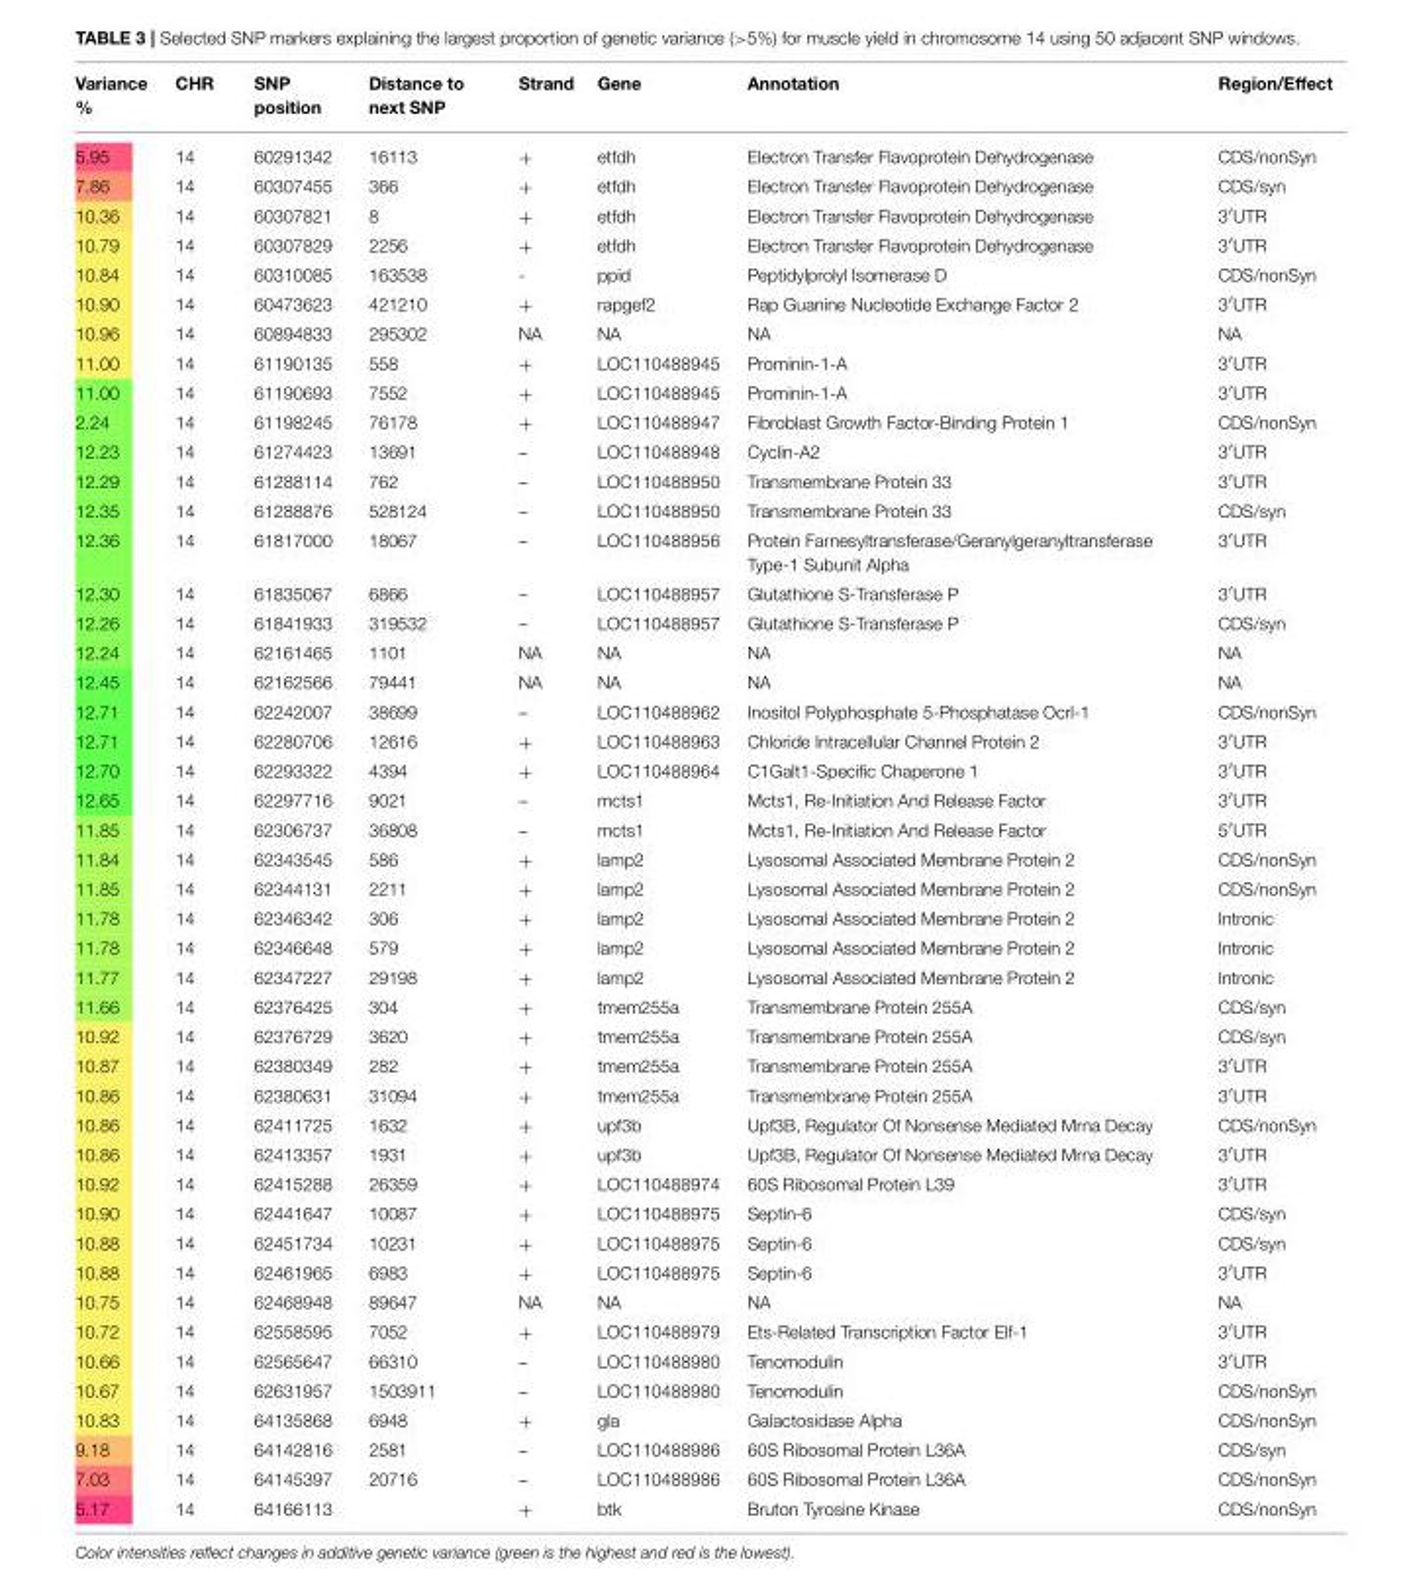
<table><thead><tr><td>Variance %</td><td>CHR</td><td>SNP position</td><td>Distance to next SNP</td><td>Strand</td><td>Gene</td><td>Annotation</td><td>Region/Effect</td></tr></thead><tbody><tr><td>5.95</td><td>14</td><td>60291342</td><td>16113</td><td>+</td><td>etfdh</td><td>Electron Transfer Flavoprotein Dehydrogenase</td><td>CDS/nonSyn</td></tr><tr><td>7.86</td><td>14</td><td>60307455</td><td>366</td><td>+</td><td>etfdh</td><td>Electron Transfer Flavoprotein Dehydrogenase</td><td>CDS/syn</td></tr><tr><td>10.36</td><td>14</td><td>60307821</td><td>8</td><td>+</td><td>etfdh</td><td>Electron Transfer Flavoprotein Dehydrogenase</td><td>3′UTR</td></tr><tr><td>10.79</td><td>14</td><td>60307829</td><td>2256</td><td>+</td><td>etfdh</td><td>Electron Transfer Flavoprotein Dehydrogenase</td><td>3′UTR</td></tr><tr><td>10.84</td><td>14</td><td>60310085</td><td>163538</td><td>-</td><td>ppid</td><td>Peptidylprolyl Isomerase D</td><td>CDS/nonSyn</td></tr><tr><td>10.90</td><td>14</td><td>60473623</td><td>421210</td><td>+</td><td>rapgef2</td><td>Rap Guanine Nucleotide Exchange Factor 2</td><td>3′UTR</td></tr><tr><td>10.96</td><td>14</td><td>60894833</td><td>295302</td><td>NA</td><td>NA</td><td>NA</td><td>NA</td></tr><tr><td>11.00</td><td>14</td><td>61190135</td><td>558</td><td>+</td><td>LOC110488945</td><td>Prominin-1-A</td><td>3′UTR</td></tr><tr><td>11.00</td><td>14</td><td>61190693</td><td>7552</td><td>+</td><td>LOC110488945</td><td>Prominin-1-A</td><td>3′UTR</td></tr><tr><td>2.24</td><td>14</td><td>61198245</td><td>76178</td><td>+</td><td>LOC110488947</td><td>Fibroblast Growth Factor-Binding Protein 1</td><td>CDS/nonSyn</td></tr><tr><td>12.23</td><td>14</td><td>61274423</td><td>13691</td><td>–</td><td>LOC110488948</td><td>Cyclin-A2</td><td>3′UTR</td></tr><tr><td>12.29</td><td>14</td><td>61288114</td><td>762</td><td>–</td><td>LOC110488950</td><td>Transmembrane Protein 33</td><td>3′UTR</td></tr><tr><td>12.35</td><td>14</td><td>61288876</td><td>528124</td><td>–</td><td>LOC110488950</td><td>Transmembrane Protein 33</td><td>CDS/syn</td></tr><tr><td>12.36</td><td>14</td><td>61817000</td><td>18067</td><td>–</td><td>LOC110488956</td><td>Protein Farnesyltransferase/Geranylgeranyltransferase Type-1 Subunit Alpha</td><td>3′UTR</td></tr><tr><td>12.30</td><td>14</td><td>61835067</td><td>6866</td><td>–</td><td>LOC110488957</td><td>Glutathione S-Transferase P</td><td>3′UTR</td></tr><tr><td>12.26</td><td>14</td><td>61841933</td><td>319532</td><td>–</td><td>LOC110488957</td><td>Glutathione S-Transferase P</td><td>CDS/syn</td></tr><tr><td>12.24</td><td>14</td><td>62161465</td><td>1101</td><td>NA</td><td>NA</td><td>NA</td><td>NA</td></tr><tr><td>12.45</td><td>14</td><td>62162566</td><td>79441</td><td>NA</td><td>NA</td><td>NA</td><td>NA</td></tr><tr><td>12.71</td><td>14</td><td>62242007</td><td>38699</td><td>–</td><td>LOC110488962</td><td>Inositol Polyphosphate 5-Phosphatase Ocrl-1</td><td>CDS/nonSyn</td></tr><tr><td>12.71</td><td>14</td><td>62280706</td><td>12616</td><td>+</td><td>LOC110488963</td><td>Chloride Intracellular Channel Protein 2</td><td>3′UTR</td></tr><tr><td>12.70</td><td>14</td><td>62293322</td><td>4394</td><td>+</td><td>LOC110488964</td><td>C1Galt1-Specific Chaperone 1</td><td>3′UTR</td></tr><tr><td>12.65</td><td>14</td><td>62297716</td><td>9021</td><td>–</td><td>mcts1</td><td>Mcts1, Re-Initiation And Release Factor</td><td>3′UTR</td></tr><tr><td>11.85</td><td>14</td><td>62306737</td><td>36808</td><td>–</td><td>mcts1</td><td>Mcts1, Re-Initiation And Release Factor</td><td>5′UTR</td></tr><tr><td>11.84</td><td>14</td><td>62343545</td><td>586</td><td>+</td><td>lamp2</td><td>Lysosomal Associated Membrane Protein 2</td><td>CDS/nonSyn</td></tr><tr><td>11.85</td><td>14</td><td>62344131</td><td>2211</td><td>+</td><td>lamp2</td><td>Lysosomal Associated Membrane Protein 2</td><td>CDS/nonSyn</td></tr><tr><td>11.78</td><td>14</td><td>62346342</td><td>306</td><td>+</td><td>lamp2</td><td>Lysosomal Associated Membrane Protein 2</td><td>Intronic</td></tr><tr><td>11.78</td><td>14</td><td>62346648</td><td>579</td><td>+</td><td>lamp2</td><td>Lysosomal Associated Membrane Protein 2</td><td>Intronic</td></tr><tr><td>11.77</td><td>14</td><td>62347227</td><td>29198</td><td>+</td><td>lamp2</td><td>Lysosomal Associated Membrane Protein 2</td><td>Intronic</td></tr><tr><td>11.66</td><td>14</td><td>62376425</td><td>304</td><td>+</td><td>tmem255a</td><td>Transmembrane Protein 255A</td><td>CDS/syn</td></tr><tr><td>10.92</td><td>14</td><td>62376729</td><td>3620</td><td>+</td><td>tmem255a</td><td>Transmembrane Protein 255A</td><td>CDS/syn</td></tr><tr><td>10.87</td><td>14</td><td>62380349</td><td>282</td><td>+</td><td>tmem255a</td><td>Transmembrane Protein 255A</td><td>3′UTR</td></tr><tr><td>10.86</td><td>14</td><td>62380631</td><td>31094</td><td>+</td><td>tmem255a</td><td>Transmembrane Protein 255A</td><td>3′UTR</td></tr><tr><td>10.86</td><td>14</td><td>62411725</td><td>1632</td><td>+</td><td>upf3b</td><td>Upf3B, Regulator Of Nonsense Mediated Mrna Decay</td><td>CDS/nonSyn</td></tr><tr><td>10.86</td><td>14</td><td>62413357</td><td>1931</td><td>+</td><td>upf3b</td><td>Upf3B, Regulator Of Nonsense Mediated Mrna Decay</td><td>3′UTR</td></tr><tr><td>10.92</td><td>14</td><td>62415288</td><td>26359</td><td>+</td><td>LOC110488974</td><td>60S Ribosomal Protein L39</td><td>3′UTR</td></tr><tr><td>10.90</td><td>14</td><td>62441647</td><td>10087</td><td>+</td><td>LOC110488975</td><td>Septin-6</td><td>CDS/syn</td></tr><tr><td>10.88</td><td>14</td><td>62451734</td><td>10231</td><td>+</td><td>LOC110488975</td><td>Septin-6</td><td>CDS/syn</td></tr><tr><td>10.88</td><td>14</td><td>62461965</td><td>6983</td><td>+</td><td>LOC110488975</td><td>Septin-6</td><td>3′UTR</td></tr><tr><td>10.75</td><td>14</td><td>62468948</td><td>89647</td><td>NA</td><td>NA</td><td>NA</td><td>NA</td></tr><tr><td>10.72</td><td>14</td><td>62558595</td><td>7052</td><td>+</td><td>LOC110488979</td><td>Ets-Related Transcription Factor Elf-1</td><td>3′UTR</td></tr><tr><td>10.66</td><td>14</td><td>62565647</td><td>66310</td><td>–</td><td>LOC110488980</td><td>Tenomodulin</td><td>3′UTR</td></tr><tr><td>10.67</td><td>14</td><td>62631957</td><td>1503911</td><td>–</td><td>LOC110488980</td><td>Tenomodulin</td><td>CDS/nonSyn</td></tr><tr><td>10.83</td><td>14</td><td>64135868</td><td>6948</td><td>+</td><td>gla</td><td>Galactosidase Alpha</td><td>CDS/nonSyn</td></tr><tr><td>9.18</td><td>14</td><td>64142816</td><td>2581</td><td>–</td><td>LOC110488986</td><td>60S Ribosomal Protein L36A</td><td>CDS/syn</td></tr><tr><td>7.03</td><td>14</td><td>64145397</td><td>20716</td><td>–</td><td>LOC110488986</td><td>60S Ribosomal Protein L36A</td><td>CDS/nonSyn</td></tr><tr><td>5.17</td><td>14</td><td>64166113</td><td></td><td>+</td><td>btk</td><td>Bruton Tyrosine Kinase</td><td>CDS/nonSyn</td></tr></tbody></table>